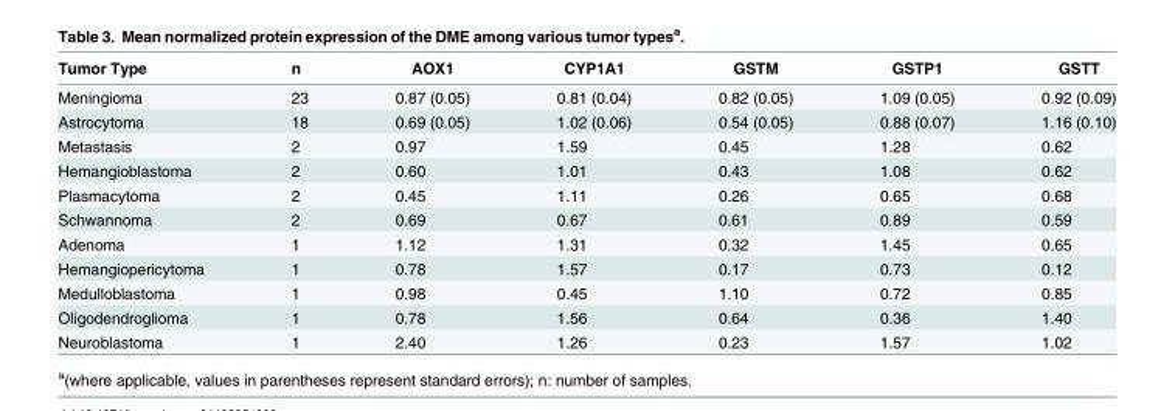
<table><thead><tr><td>Tumor Type</td><td>n</td><td>AOX1</td><td>CYP1A1</td><td>GSTM</td><td>GSTP1</td><td>GSTT</td></tr></thead><tbody><tr><td>Meningioma</td><td>23</td><td>0.87 (0.05)</td><td>0.81 (0.04)</td><td>0.82 (0.05)</td><td>1.09 (0.05)</td><td>0.92 (0.09)</td></tr><tr><td>Astrocytoma</td><td>18</td><td>0.69 (0.05)</td><td>1.02 (0.06)</td><td>0.54 (0.05)</td><td>0.88 (0.07)</td><td>1.16 (0.10)</td></tr><tr><td>Metastasis</td><td>2</td><td>0.97</td><td>1.59</td><td>0.45</td><td>1.28</td><td>0.62</td></tr><tr><td>Hemangioblastoma</td><td>2</td><td>0.60</td><td>1.01</td><td>0.43</td><td>1.08</td><td>0.62</td></tr><tr><td>Plasmacytoma</td><td>2</td><td>0.45</td><td>1.11</td><td>0.26</td><td>0.65</td><td>0.68</td></tr><tr><td>Schwannoma</td><td>2</td><td>0.69</td><td>0.67</td><td>0.61</td><td>0.89</td><td>0.59</td></tr><tr><td>Adenoma</td><td>1</td><td>1.12</td><td>1.31</td><td>0.32</td><td>1.45</td><td>0.65</td></tr><tr><td>Hemangiopericytoma</td><td>1</td><td>0.78</td><td>1.57</td><td>0.17</td><td>0.73</td><td>0.12</td></tr><tr><td>Medulloblastoma</td><td>1</td><td>0.98</td><td>0.45</td><td>1.10</td><td>0.72</td><td>0.85</td></tr><tr><td>Oligodendroglioma</td><td>1</td><td>0.78</td><td>1.56</td><td>0.64</td><td>0.36</td><td>1.40</td></tr><tr><td>Neuroblastoma</td><td>1</td><td>2.40</td><td>1.26</td><td>0.23</td><td>1.57</td><td>1.02</td></tr></tbody></table>